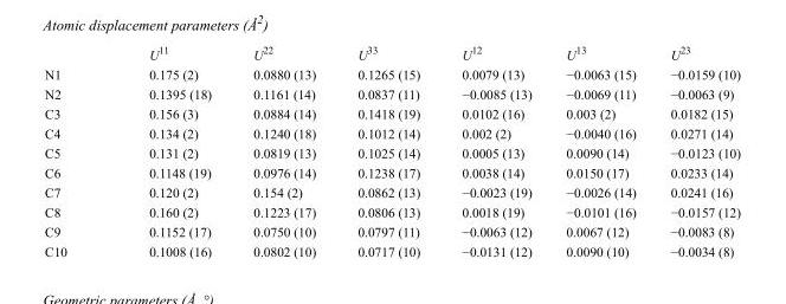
<table><thead><tr><td></td><td>U<sup>11</sup></td><td>U<sup>22</sup></td><td>U<sup>33</sup></td><td>U<sup>12</sup></td><td>U<sup>13</sup></td><td>U<sup>23</sup></td></tr></thead><tbody><tr><td>N1</td><td>0.175 (2)</td><td>0.0880 (13)</td><td>0.1265 (15)</td><td>0.0079 (13)</td><td>−0.0063 (15)</td><td>−0.0159 (10)</td></tr><tr><td>N2</td><td>0.1395 (18)</td><td>0.1161 (14)</td><td>0.0837 (11)</td><td>−0.0085 (13)</td><td>−0.0069 (11)</td><td>−0.0063 (9)</td></tr><tr><td>C3</td><td>0.156 (3)</td><td>0.0884 (14)</td><td>0.1418 (19)</td><td>0.0102 (16)</td><td>0.003 (2)</td><td>0.0182 (15)</td></tr><tr><td>C4</td><td>0.134 (2)</td><td>0.1240 (18)</td><td>0.1012 (14)</td><td>0.002 (2)</td><td>−0.0040 (16)</td><td>0.0271 (14)</td></tr><tr><td>C5</td><td>0.131 (2)</td><td>0.0819 (13)</td><td>0.1025 (14)</td><td>0.0005 (13)</td><td>0.0090 (14)</td><td>−0.0123 (10)</td></tr><tr><td>C6</td><td>0.1148 (19)</td><td>0.0976 (14)</td><td>0.1238 (17)</td><td>0.0038 (14)</td><td>0.0150 (17)</td><td>0.0233 (14)</td></tr><tr><td>C7</td><td>0.120 (2)</td><td>0.154 (2)</td><td>0.0862 (13)</td><td>−0.0023 (19)</td><td>−0.0026 (14)</td><td>0.0241 (16)</td></tr><tr><td>C8</td><td>0.160 (2)</td><td>0.1223 (17)</td><td>0.0806 (13)</td><td>0.0018 (19)</td><td>−0.0101 (16)</td><td>−0.0157 (12)</td></tr><tr><td>C9</td><td>0.1152 (17)</td><td>0.0750 (10)</td><td>0.0797 (11)</td><td>−0.0063 (12)</td><td>0.0067 (12)</td><td>−0.0083 (8)</td></tr><tr><td>C10</td><td>0.1008 (16)</td><td>0.0802 (10)</td><td>0.0717 (10)</td><td>−0.0131 (12)</td><td>0.0090 (10)</td><td>−0.0034 (8)</td></tr></tbody></table>